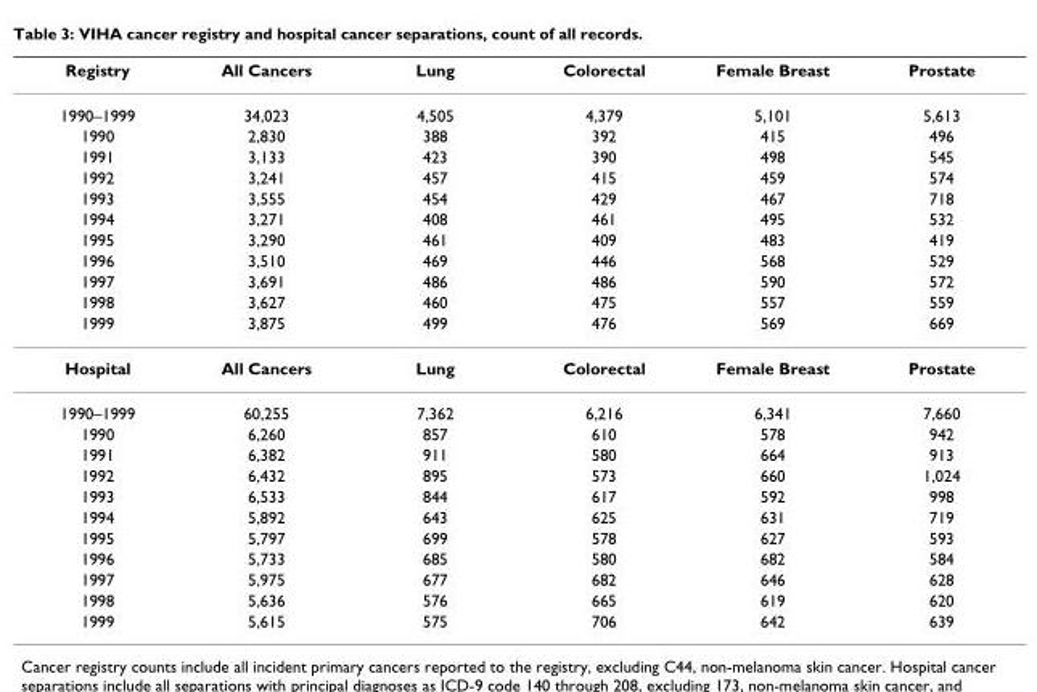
<table><thead><tr><td>Registry</td><td>All Cancers</td><td>Lung</td><td>Colorectal</td><td>Female Breast</td><td>Prostate</td></tr></thead><tbody><tr><td>1990–1999</td><td>34,023</td><td>4,505</td><td>4,379</td><td>5,101</td><td>5,613</td></tr><tr><td>1990</td><td>2,830</td><td>388</td><td>392</td><td>415</td><td>496</td></tr><tr><td>1991</td><td>3,133</td><td>423</td><td>390</td><td>498</td><td>545</td></tr><tr><td>1992</td><td>3,241</td><td>457</td><td>415</td><td>459</td><td>574</td></tr><tr><td>1993</td><td>3,555</td><td>454</td><td>429</td><td>467</td><td>718</td></tr><tr><td>1994</td><td>3,271</td><td>408</td><td>461</td><td>495</td><td>532</td></tr><tr><td>1995</td><td>3,290</td><td>461</td><td>409</td><td>483</td><td>419</td></tr><tr><td>1996</td><td>3,510</td><td>469</td><td>446</td><td>568</td><td>529</td></tr><tr><td>1997</td><td>3,691</td><td>486</td><td>486</td><td>590</td><td>572</td></tr><tr><td>1998</td><td>3,627</td><td>460</td><td>475</td><td>557</td><td>559</td></tr><tr><td>1999</td><td>3,875</td><td>499</td><td>476</td><td>569</td><td>669</td></tr><tr><td>Hospital</td><td>All Cancers</td><td>Lung</td><td>Colorectal</td><td>Female Breast</td><td>Prostate</td></tr><tr><td>1990–1999</td><td>60,255</td><td>7,362</td><td>6,216</td><td>6,341</td><td>7,660</td></tr><tr><td>1990</td><td>6,260</td><td>857</td><td>610</td><td>578</td><td>942</td></tr><tr><td>1991</td><td>6,382</td><td>911</td><td>580</td><td>664</td><td>913</td></tr><tr><td>1992</td><td>6,432</td><td>895</td><td>573</td><td>660</td><td>1,024</td></tr><tr><td>1993</td><td>6,533</td><td>844</td><td>617</td><td>592</td><td>998</td></tr><tr><td>1994</td><td>5,892</td><td>643</td><td>625</td><td>631</td><td>719</td></tr><tr><td>1995</td><td>5,797</td><td>699</td><td>578</td><td>627</td><td>593</td></tr><tr><td>1996</td><td>5,733</td><td>685</td><td>580</td><td>682</td><td>584</td></tr><tr><td>1997</td><td>5,975</td><td>677</td><td>682</td><td>646</td><td>628</td></tr><tr><td>1998</td><td>5,636</td><td>576</td><td>665</td><td>619</td><td>620</td></tr><tr><td>1999</td><td>5,615</td><td>575</td><td>706</td><td>642</td><td>639</td></tr></tbody></table>